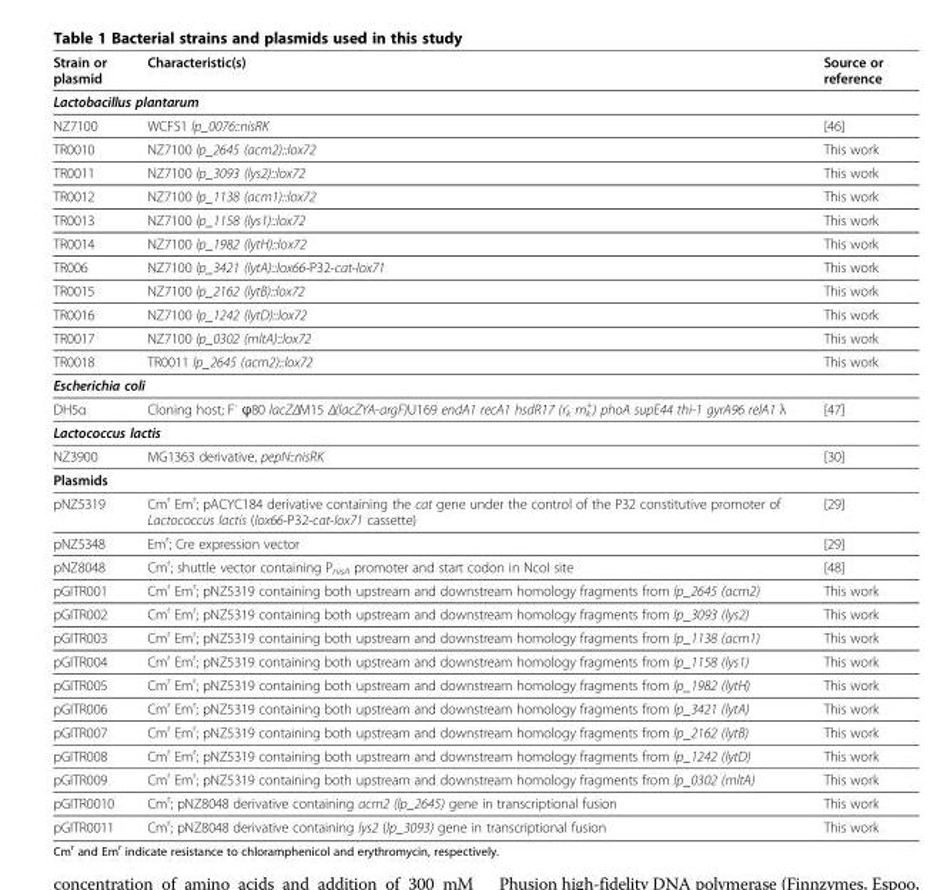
<table><thead><tr><td>Strain or plasmid</td><td>Characteristic(s)</td><td>Source or reference</td></tr></thead><tbody><tr><td colspan="3">Lactobacillus plantarum</td></tr><tr><td>NZ7100</td><td>WCFS1 lp_0076::nisRK</td><td>[46]</td></tr><tr><td>TR0010</td><td>NZ7100 lp_2645 (acm2)::lox72</td><td>This work</td></tr><tr><td>TR0011</td><td>NZ7100 lp_3093 (lys2)::lox72</td><td>This work</td></tr><tr><td>TR0012</td><td>NZ7100 lp_1138 (acm1)::lox72</td><td>This work</td></tr><tr><td>TR0013</td><td>NZ7100 lp_1158 (lys1)::lox72</td><td>This work</td></tr><tr><td>TR0014</td><td>NZ7100 lp_1982 (lytH)::lox72</td><td>This work</td></tr><tr><td>TR006</td><td>NZ7100 lp_3421 (lytA)::lox66-P32-cat-lox71</td><td>This work</td></tr><tr><td>TR0015</td><td>NZ7100 lp_2162 (lytB)::lox72</td><td>This work</td></tr><tr><td>TR0016</td><td>NZ7100 lp_1242 (lytD)::lox72</td><td>This work</td></tr><tr><td>TR0017</td><td>NZ7100 lp_0302 (mltA)::lox72</td><td>This work</td></tr><tr><td>TR0018</td><td>TR0011 lp_2645 (acm2)::lox72</td><td>This work</td></tr><tr><td colspan="3">Escherichia coli</td></tr><tr><td>DH5α</td><td>Cloning host; F- ϕ80 lacZΔM15 Δ(lacZYA-argF)U169 endA1 recA1 hsdR17 (rk - mk +) phoA supE44 thi-1 gyrA96 relA1 λ</td><td>[47]</td></tr><tr><td colspan="3">Lactococcus lactis</td></tr><tr><td>NZ3900</td><td>MG1363 derivative, pepN::nisRK</td><td>[30]</td></tr><tr><td colspan="3">Plasmids</td></tr><tr><td>pNZ5319</td><td>Cm<sup>r</sup> Em<sup>r</sup>; pACYC184 derivative containing the cat gene under the control of the P32 constitutive promoter of Lactococcus lactis (lox66-P32-cat-lox71 cassette)</td><td>[29]</td></tr><tr><td>pNZ5348</td><td>Em<sup>r</sup>; Cre expression vector</td><td>[29]</td></tr><tr><td>pNZ8048</td><td>Cm<sup>r</sup>; shuttle vector containing P<sub>nisA</sub> promoter and start codon in NcoI site</td><td>[48]</td></tr><tr><td>pGITR001</td><td>Cm<sup>r</sup> Em<sup>r</sup>; pNZ5319 containing both upstream and downstream homology fragments from lp_2645 (acm2)</td><td>This work</td></tr><tr><td>pGITR002</td><td>Cm<sup>r</sup> Em<sup>r</sup>; pNZ5319 containing both upstream and downstream homology fragments from lp_3093 (lys2)</td><td>This work</td></tr><tr><td>pGITR003</td><td>Cm<sup>r</sup> Em<sup>r</sup>; pNZ5319 containing both upstream and downstream homology fragments from lp_1138 (acm1)</td><td>This work</td></tr><tr><td>pGITR004</td><td>Cm<sup>r</sup> Em<sup>r</sup>; pNZ5319 containing both upstream and downstream homology fragments from lp_1158 (lys1)</td><td>This work</td></tr><tr><td>pGITR005</td><td>Cm<sup>r</sup> Em<sup>r</sup>; pNZ5319 containing both upstream and downstream homology fragments from lp_1982 (lytH)</td><td>This work</td></tr><tr><td>pGITR006</td><td>Cm<sup>r</sup> Em<sup>r</sup>; pNZ5319 containing both upstream and downstream homology fragments from lp_3421 (lytA)</td><td>This work</td></tr><tr><td>pGITR007</td><td>Cm<sup>r</sup> Em<sup>r</sup>; pNZ5319 containing both upstream and downstream homology fragments from lp_2162 (lytB)</td><td>This work</td></tr><tr><td>pGITR008</td><td>Cm<sup>r</sup> Em<sup>r</sup>; pNZ5319 containing both upstream and downstream homology fragments from lp_1242 (lytD)</td><td>This work</td></tr><tr><td>pGITR009</td><td>Cm<sup>r</sup> Em<sup>r</sup>; pNZ5319 containing both upstream and downstream homology fragments from lp_0302 (mltA)</td><td>This work</td></tr><tr><td>pGITR0010</td><td>Cm<sup>r</sup>; pNZ8048 derivative containing acm2 (lp_2645) gene in transcriptional fusion</td><td>This work</td></tr><tr><td>pGITR0011</td><td>Cm<sup>r</sup>; pNZ8048 derivative containing lys2 (lp_3093) gene in transcriptional fusion</td><td>This work</td></tr></tbody></table>